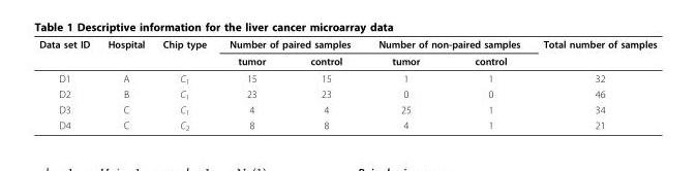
<table><thead><tr><td rowspan="2">Data set ID</td><td rowspan="2">Hospital</td><td rowspan="2">Chip type</td><td colspan="2">Number of paired samples</td><td colspan="2">Number of non-paired samples</td><td rowspan="2">Total number of samples</td></tr><tr><td>tumor</td><td>control</td><td>tumor</td><td>control</td></tr></thead><tbody><tr><td>D1</td><td>A</td><td>C<sub>1</sub></td><td>15</td><td>15</td><td>1</td><td>1</td><td>32</td></tr><tr><td>D2</td><td>B</td><td>C<sub>1</sub></td><td>23</td><td>23</td><td>0</td><td>0</td><td>46</td></tr><tr><td>D3</td><td>C</td><td>C<sub>1</sub></td><td>4</td><td>4</td><td>25</td><td>1</td><td>34</td></tr><tr><td>D4</td><td>C</td><td>C<sub>2</sub></td><td>8</td><td>8</td><td>4</td><td>1</td><td>21</td></tr></tbody></table>